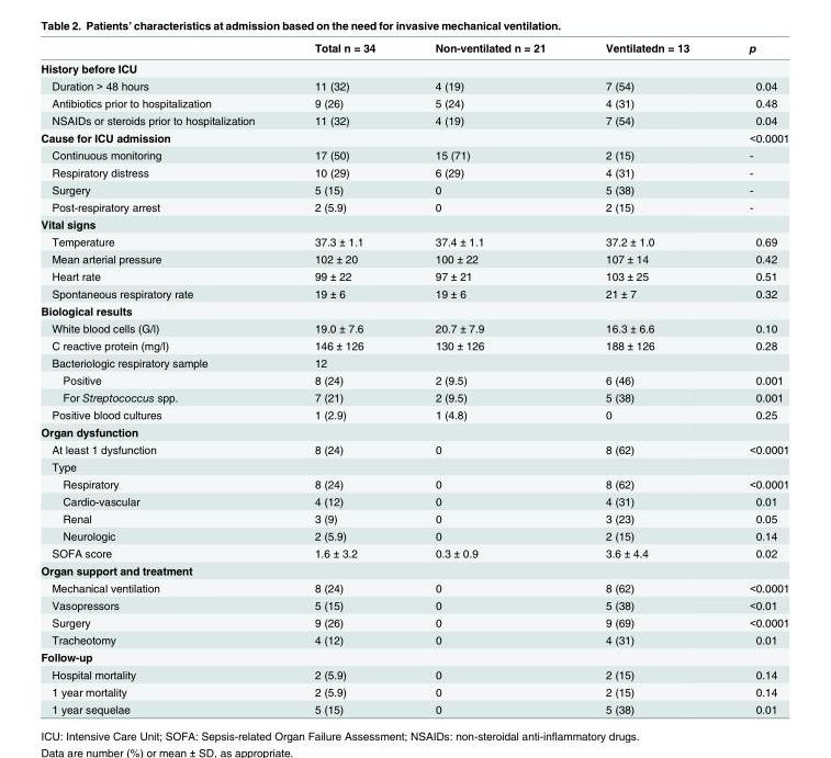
<table><thead><tr><td></td><td>Total n = 34</td><td>Non-ventilated n = 21</td><td>Ventilatedn = 13</td><td>p</td></tr></thead><tbody><tr><td colspan="5">History before ICU</td></tr><tr><td>Duration &gt; 48 hours</td><td>11 (32)</td><td>4 (19)</td><td>7 (54)</td><td>0.04</td></tr><tr><td>Antibiotics prior to hospitalization</td><td>9 (26)</td><td>5 (24)</td><td>4 (31)</td><td>0.48</td></tr><tr><td>NSAIDs or steroids prior to hospitalization</td><td>11 (32)</td><td>4 (19)</td><td>7 (54)</td><td>0.04</td></tr><tr><td>Cause for ICU admission</td><td></td><td></td><td></td><td>&lt;0.0001</td></tr><tr><td>Continuous monitoring</td><td>17 (50)</td><td>15 (71)</td><td>2 (15)</td><td>-</td></tr><tr><td>Respiratory distress</td><td>10 (29)</td><td>6 (29)</td><td>4 (31)</td><td>-</td></tr><tr><td>Surgery</td><td>5 (15)</td><td>0</td><td>5 (38)</td><td>-</td></tr><tr><td>Post-respiratory arrest</td><td>2 (5.9)</td><td>0</td><td>2 (15)</td><td>-</td></tr><tr><td colspan="5">Vital signs</td></tr><tr><td>Temperature</td><td>37.3 ± 1.1</td><td>37.4 ± 1.1</td><td>37.2 ± 1.0</td><td>0.69</td></tr><tr><td>Mean arterial pressure</td><td>102 ± 20</td><td>100 ± 22</td><td>107 ± 14</td><td>0.42</td></tr><tr><td>Heart rate</td><td>99 ± 22</td><td>97 ± 21</td><td>103 ± 25</td><td>0.51</td></tr><tr><td>Spontaneous respiratory rate</td><td>19 ± 6</td><td>19 ± 6</td><td>21 ± 7</td><td>0.32</td></tr><tr><td colspan="5">Biological results</td></tr><tr><td>White blood cells (G/l)</td><td>19.0 ± 7.6</td><td>20.7 ± 7.9</td><td>16.3 ± 6.6</td><td>0.10</td></tr><tr><td>C reactive protein (mg/l)</td><td>146 ± 126</td><td>130 ± 126</td><td>188 ± 126</td><td>0.28</td></tr><tr><td>Bacteriologic respiratory sample</td><td>12</td><td></td><td></td><td></td></tr><tr><td>Positive</td><td>8 (24)</td><td>2 (9.5)</td><td>6 (46)</td><td>0.001</td></tr><tr><td>For Streptococcus spp.</td><td>7 (21)</td><td>2 (9.5)</td><td>5 (38)</td><td>0.001</td></tr><tr><td>Positive blood cultures</td><td>1 (2.9)</td><td>1 (4.8)</td><td>0</td><td>0.25</td></tr><tr><td colspan="5">Organ dysfunction</td></tr><tr><td>At least 1 dysfunction</td><td>8 (24)</td><td>0</td><td>8 (62)</td><td>&lt;0.0001</td></tr><tr><td colspan="5">Type</td></tr><tr><td>Respiratory</td><td>8 (24)</td><td>0</td><td>8 (62)</td><td>&lt;0.0001</td></tr><tr><td>Cardio-vascular</td><td>4 (12)</td><td>0</td><td>4 (31)</td><td>0.01</td></tr><tr><td>Renal</td><td>3 (9)</td><td>0</td><td>3 (23)</td><td>0.05</td></tr><tr><td>Neurologic</td><td>2 (5.9)</td><td>0</td><td>2 (15)</td><td>0.14</td></tr><tr><td>SOFA score</td><td>1.6 ± 3.2</td><td>0.3 ± 0.9</td><td>3.6 ± 4.4</td><td>0.02</td></tr><tr><td colspan="5">Organ support and treatment</td></tr><tr><td>Mechanical ventilation</td><td>8 (24)</td><td>0</td><td>8 (62)</td><td>&lt;0.0001</td></tr><tr><td>Vasopressors</td><td>5 (15)</td><td>0</td><td>5 (38)</td><td>&lt;0.01</td></tr><tr><td>Surgery</td><td>9 (26)</td><td>0</td><td>9 (69)</td><td>&lt;0.0001</td></tr><tr><td>Tracheotomy</td><td>4 (12)</td><td>0</td><td>4 (31)</td><td>0.01</td></tr><tr><td colspan="5">Follow-up</td></tr><tr><td>Hospital mortality</td><td>2 (5.9)</td><td>0</td><td>2 (15)</td><td>0.14</td></tr><tr><td>1 year mortality</td><td>2 (5.9)</td><td>0</td><td>2 (15)</td><td>0.14</td></tr><tr><td>1 year sequelae</td><td>5 (15)</td><td>0</td><td>5 (38)</td><td>0.01</td></tr></tbody></table>